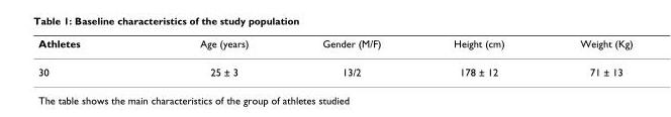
<table><thead><tr><td>Athletes</td><td>Age (years)</td><td>Gender (M/F)</td><td>Height (cm)</td><td>Weight (Kg)</td></tr></thead><tbody><tr><td>30</td><td>25 ± 3</td><td>13/2</td><td>178 ± 12</td><td>71 ± 13</td></tr></tbody></table>